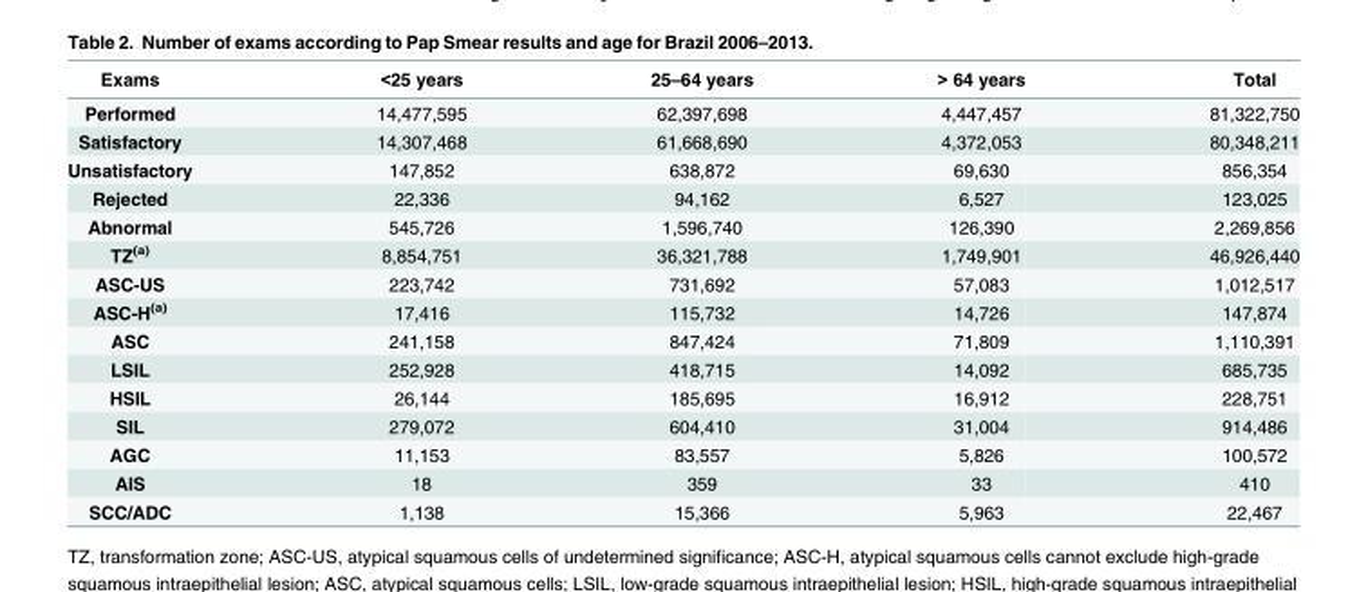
<table><thead><tr><td>Exams</td><td>&lt;25 years</td><td>25–64 years</td><td>&gt; 64 years</td><td>Total</td></tr></thead><tbody><tr><td>Performed</td><td>14,477,595</td><td>62,397,698</td><td>4,447,457</td><td>81,322,750</td></tr><tr><td>Satisfactory</td><td>14,307,468</td><td>61,668,690</td><td>4,372,053</td><td>80,348,211</td></tr><tr><td>Unsatisfactory</td><td>147,852</td><td>638,872</td><td>69,630</td><td>856,354</td></tr><tr><td>Rejected</td><td>22,336</td><td>94,162</td><td>6,527</td><td>123,025</td></tr><tr><td>Abnormal</td><td>545,726</td><td>1,596,740</td><td>126,390</td><td>2,269,856</td></tr><tr><td>TZ<sup>(a)</sup></td><td>8,854,751</td><td>36,321,788</td><td>1,749,901</td><td>46,926,440</td></tr><tr><td>ASC-US</td><td>223,742</td><td>731,692</td><td>57,083</td><td>1,012,517</td></tr><tr><td>ASC-H<sup>(a)</sup></td><td>17,416</td><td>115,732</td><td>14,726</td><td>147,874</td></tr><tr><td>ASC</td><td>241,158</td><td>847,424</td><td>71,809</td><td>1,110,391</td></tr><tr><td>LSIL</td><td>252,928</td><td>418,715</td><td>14,092</td><td>685,735</td></tr><tr><td>HSIL</td><td>26,144</td><td>185,695</td><td>16,912</td><td>228,751</td></tr><tr><td>SIL</td><td>279,072</td><td>604,410</td><td>31,004</td><td>914,486</td></tr><tr><td>AGC</td><td>11,153</td><td>83,557</td><td>5,826</td><td>100,572</td></tr><tr><td>AIS</td><td>18</td><td>359</td><td>33</td><td>410</td></tr><tr><td>SCC/ADC</td><td>1,138</td><td>15,366</td><td>5,963</td><td>22,467</td></tr></tbody></table>